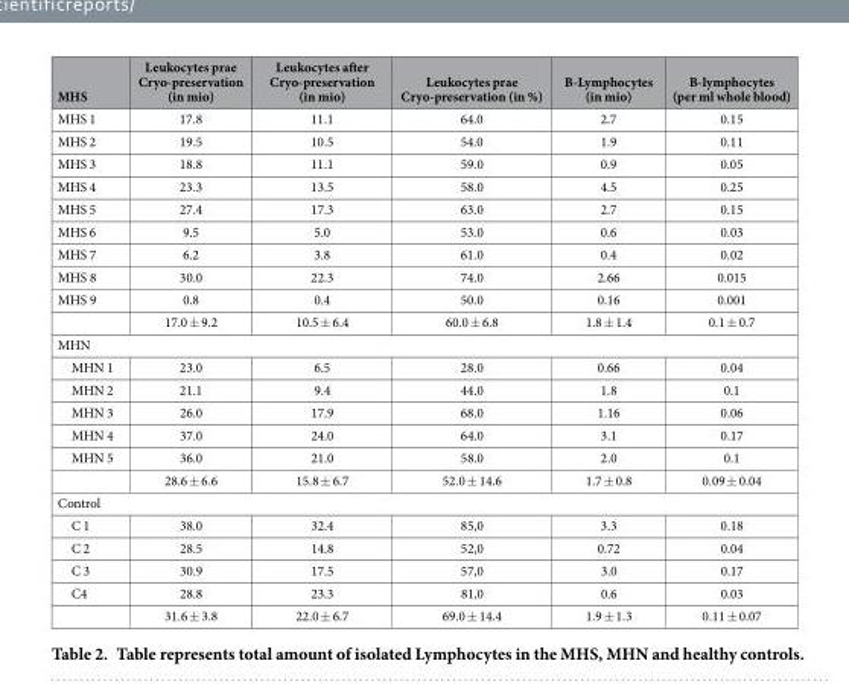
<table><thead><tr><td>MHS</td><td>Leukocytes prae Cryo-preservation (in mio)</td><td>Leukocytes after Cryo-preservation (in mio)</td><td>Leukocytes prae Cryo-preservation (in %)</td><td>B-Lymphocytes (in mio)</td><td>B-lymphocytes (per ml whole blood)</td></tr></thead><tbody><tr><td>MHS 1</td><td>17.8</td><td>11.1</td><td>64.0</td><td>2.7</td><td>0.15</td></tr><tr><td>MHS 2</td><td>19.5</td><td>10.5</td><td>54.0</td><td>1.9</td><td>0.11</td></tr><tr><td>MHS 3</td><td>18.8</td><td>11.1</td><td>59.0</td><td>0.9</td><td>0.05</td></tr><tr><td>MHS 4</td><td>23.3</td><td>13.5</td><td>58.0</td><td>4.5</td><td>0.25</td></tr><tr><td>MHS 5</td><td>27.4</td><td>17.3</td><td>63.0</td><td>2.7</td><td>0.15</td></tr><tr><td>MHS 6</td><td>9.5</td><td>5.0</td><td>53.0</td><td>0.6</td><td>0.03</td></tr><tr><td>MHS 7</td><td>6.2</td><td>3.8</td><td>61.0</td><td>0.4</td><td>0.02</td></tr><tr><td>MHS 8</td><td>30.0</td><td>22.3</td><td>74.0</td><td>2.66</td><td>0.015</td></tr><tr><td rowspan="2">MHS 9</td><td>0.8</td><td>0.4</td><td>50.0</td><td>0.16</td><td>0.001</td></tr><tr><td>17.0 ± 9.2</td><td>10.5 ± 6.4</td><td>60.0 ± 6.8</td><td>1.8 ± 1.4</td><td>0.1 ± 0.7</td></tr><tr><td colspan="6">MHN</td></tr><tr><td>MHN 1</td><td>23.0</td><td>6.5</td><td>28.0</td><td>0.66</td><td>0.04</td></tr><tr><td>MHN 2</td><td>21.1</td><td>9.4</td><td>44.0</td><td>1.8</td><td>0.1</td></tr><tr><td>MHN 3</td><td>26.0</td><td>17.9</td><td>68.0</td><td>1.16</td><td>0.06</td></tr><tr><td>MHN 4</td><td>37.0</td><td>24.0</td><td>64.0</td><td>3.1</td><td>0.17</td></tr><tr><td rowspan="2">MHN 5</td><td>36.0</td><td>21.0</td><td>58.0</td><td>2.0</td><td>0.1</td></tr><tr><td>28.6 ± 6.6</td><td>15.8 ± 6.7</td><td>52.0 ± 14.6</td><td>1.7 ± 0.8</td><td>0.09 ± 0.04</td></tr><tr><td colspan="6">Control</td></tr><tr><td>C 1</td><td>38.0</td><td>32.4</td><td>85,0</td><td>3.3</td><td>0.18</td></tr><tr><td>C 2</td><td>28.5</td><td>14.8</td><td>52,0</td><td>0.72</td><td>0.04</td></tr><tr><td>C 3</td><td>30.9</td><td>17.5</td><td>57,0</td><td>3.0</td><td>0.17</td></tr><tr><td rowspan="2">C4</td><td>28.8</td><td>23.3</td><td>81,0</td><td>0.6</td><td>0.03</td></tr><tr><td>31.6 ± 3.8</td><td>22.0 ± 6.7</td><td>69.0 ± 14.4</td><td>1.9 ± 1.3</td><td>0.11 ± 0.07</td></tr></tbody></table>